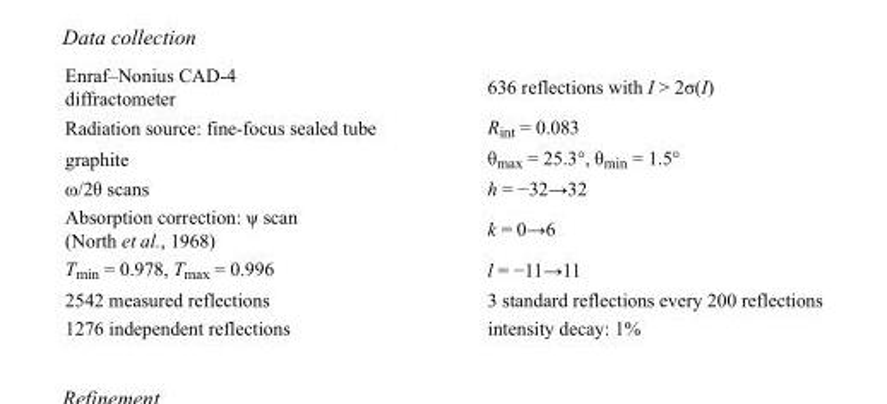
<table><tbody><tr><td>Enraf–Nonius CAD-4 diffractometer</td><td>636 reflections with I &gt; 2σ(I)</td></tr><tr><td>Radiation source: fine-focus sealed tube</td><td>R<sub>int</sub> = 0.083</td></tr><tr><td>graphite</td><td>θ<sub>max</sub> = 25.3°, θ<sub>min</sub> = 1.5°</td></tr><tr><td>ω/2θ scans</td><td>h = −32→32</td></tr><tr><td>Absorption correction: ψ scan (North et al., 1968)</td><td>k = 0→6</td></tr><tr><td>T<sub>min</sub> = 0.978, T<sub>max</sub> = 0.996</td><td>l = −11→11</td></tr><tr><td>2542 measured reflections</td><td>3 standard reflections every 200 reflections</td></tr><tr><td>1276 independent reflections</td><td>intensity decay: 1%</td></tr></tbody></table>